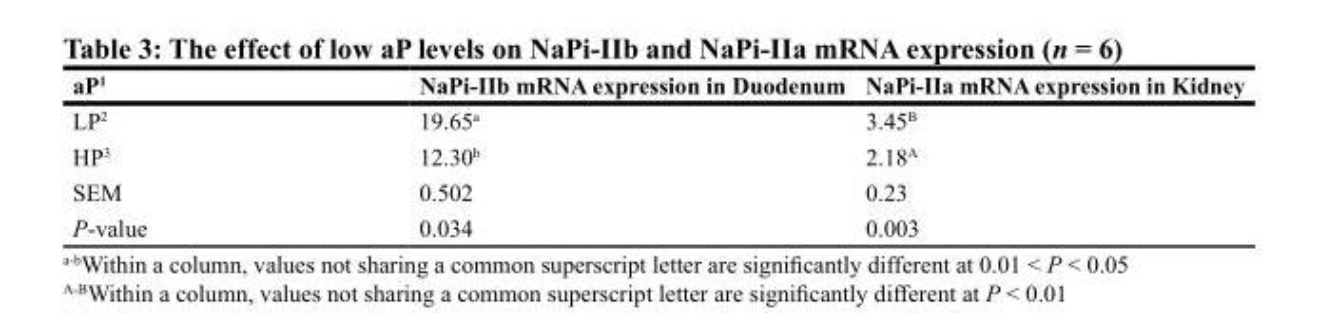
<table><thead><tr><td>aP<sup>1</sup></td><td>NaPi-IIb mRNA expression in Duodenum</td><td>NaPi-IIa mRNA expression in Kidney</td></tr></thead><tbody><tr><td>LP<sup>2</sup></td><td>19.65<sup>a</sup></td><td>3.45<sup>B</sup></td></tr><tr><td>HP<sup>3</sup></td><td>12.30<sup>b</sup></td><td>2.18<sup>A</sup></td></tr><tr><td>SEM</td><td>0.502</td><td>0.23</td></tr><tr><td>P-value</td><td>0.034</td><td>0.003</td></tr></tbody></table>